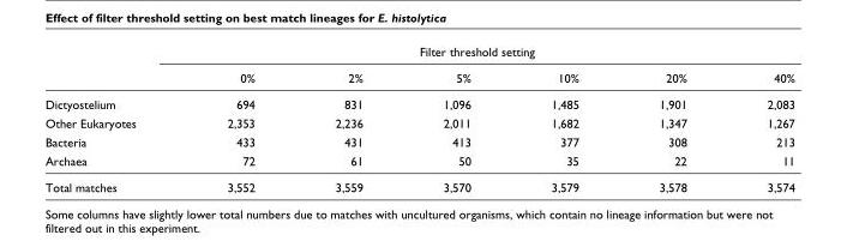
<table><thead><tr><td rowspan="2"></td><td colspan="6">Filter threshold setting</td></tr><tr><td>0%</td><td>2%</td><td>5%</td><td>10%</td><td>20%</td><td>40%</td></tr></thead><tbody><tr><td>Dictyostelium</td><td>694</td><td>831</td><td>1,096</td><td>1,485</td><td>1,901</td><td>2,083</td></tr><tr><td>Other Eukaryotes</td><td>2,353</td><td>2,236</td><td>2,011</td><td>1,682</td><td>1,347</td><td>1,267</td></tr><tr><td>Bacteria</td><td>433</td><td>431</td><td>413</td><td>377</td><td>308</td><td>213</td></tr><tr><td>Archaea</td><td>72</td><td>61</td><td>50</td><td>35</td><td>22</td><td>11</td></tr><tr><td>Total matches</td><td>3,552</td><td>3,559</td><td>3,570</td><td>3,579</td><td>3,578</td><td>3,574</td></tr></tbody></table>